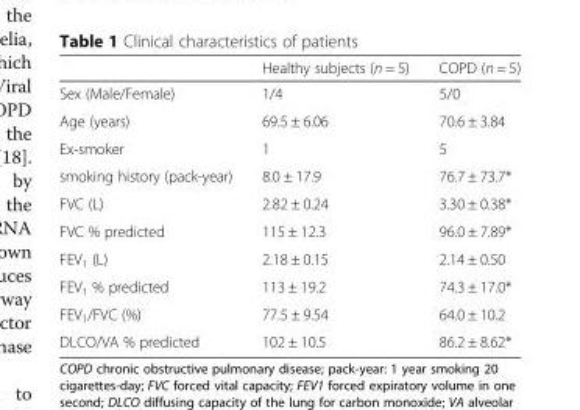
<table><thead><tr><td></td><td>Healthy subjects (n = 5)</td><td>COPD (n = 5)</td></tr></thead><tbody><tr><td>Sex (Male/Female)</td><td>1/4</td><td>5/0</td></tr><tr><td>Age (years)</td><td>69.5 ± 6.06</td><td>70.6 ± 3.84</td></tr><tr><td>Ex-smoker</td><td>1</td><td>5</td></tr><tr><td>smoking history (pack-year)</td><td>8.0 ± 17.9</td><td>76.7 ± 73.7*</td></tr><tr><td>FVC (L)</td><td>2.82 ± 0.24</td><td>3.30 ± 0.38*</td></tr><tr><td>FVC % predicted</td><td>115 ± 12.3</td><td>96.0 ± 7.89*</td></tr><tr><td>FEV<sub>1</sub> (L)</td><td>2.18 ± 0.15</td><td>2.14 ± 0.50</td></tr><tr><td>FEV<sub>1</sub> % predicted</td><td>113 ± 19.2</td><td>74.3 ± 17.0*</td></tr><tr><td>FEV<sub>1</sub>/FVC (%)</td><td>77.5 ± 9.54</td><td>64.0 ± 10.2</td></tr><tr><td>DLCO/VA % predicted</td><td>102 ± 10.5</td><td>86.2 ± 8.62*</td></tr></tbody></table>